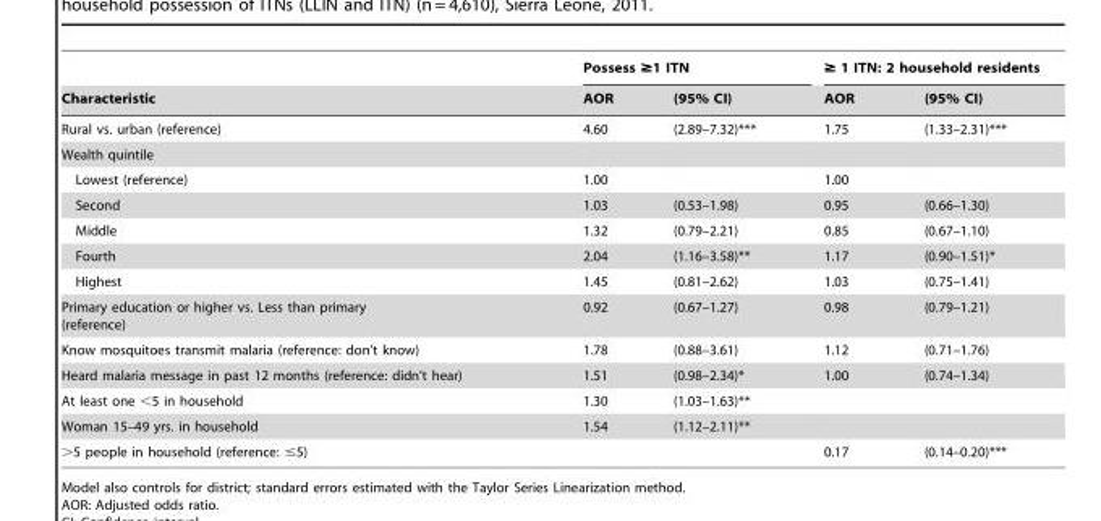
<table><thead><tr><td rowspan="2">Characteristic</td><td colspan="2">Possess ≥1 ITN</td><td colspan="2">≥ 1 ITN: 2 household residents</td></tr><tr><td>AOR</td><td>(95% CI)</td><td>AOR</td><td>(95% CI)</td></tr></thead><tbody><tr><td>Rural vs. urban (reference)</td><td>4.60</td><td>(2.89–7.32)***</td><td>1.75</td><td>(1.33–2.31)***</td></tr><tr><td colspan="5">Wealth quintile</td></tr><tr><td>Lowest (reference)</td><td>1.00</td><td></td><td>1.00</td><td></td></tr><tr><td>Second</td><td>1.03</td><td>(0.53–1.98)</td><td>0.95</td><td>(0.66–1.30)</td></tr><tr><td>Middle</td><td>1.32</td><td>(0.79–2.21)</td><td>0.85</td><td>(0.67–1.10)</td></tr><tr><td>Fourth</td><td>2.04</td><td>(1.16–3.58)**</td><td>1.17</td><td>(0.90–1.51)*</td></tr><tr><td>Highest</td><td>1.45</td><td>(0.81–2.62)</td><td>1.03</td><td>(0.75–1.41)</td></tr><tr><td>Primary education or higher vs. Less than primary (reference)</td><td>0.92</td><td>(0.67–1.27)</td><td>0.98</td><td>(0.79–1.21)</td></tr><tr><td>Know mosquitoes transmit malaria (reference: don’t know)</td><td>1.78</td><td>(0.88–3.61)</td><td>1.12</td><td>(0.71–1.76)</td></tr><tr><td>Heard malaria message in past 12 months (reference: didn’t hear)</td><td>1.51</td><td>(0.98–2.34)*</td><td>1.00</td><td>(0.74–1.34)</td></tr><tr><td>At least one &lt;5 in household</td><td>1.30</td><td>(1.03–1.63)**</td><td></td><td></td></tr><tr><td>Woman 15–49 yrs. in household</td><td>1.54</td><td>(1.12–2.11)**</td><td></td><td></td></tr><tr><td>&gt;5 people in household (reference: ≤5)</td><td></td><td></td><td>0.17</td><td>(0.14–0.20)***</td></tr></tbody></table>